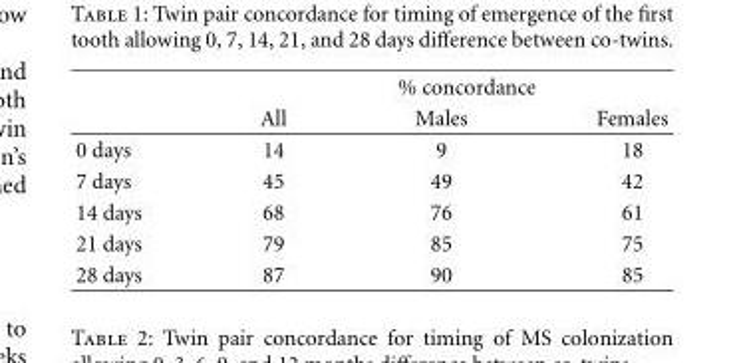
<table><thead><tr><td rowspan="2"></td><td colspan="3">% concordance</td></tr><tr><td>All</td><td>Males</td><td>Females</td></tr></thead><tbody><tr><td>0 days</td><td>14</td><td>9</td><td>18</td></tr><tr><td>7 days</td><td>45</td><td>49</td><td>42</td></tr><tr><td>14 days</td><td>68</td><td>76</td><td>61</td></tr><tr><td>21 days</td><td>79</td><td>85</td><td>75</td></tr><tr><td>28 days</td><td>87</td><td>90</td><td>85</td></tr></tbody></table>